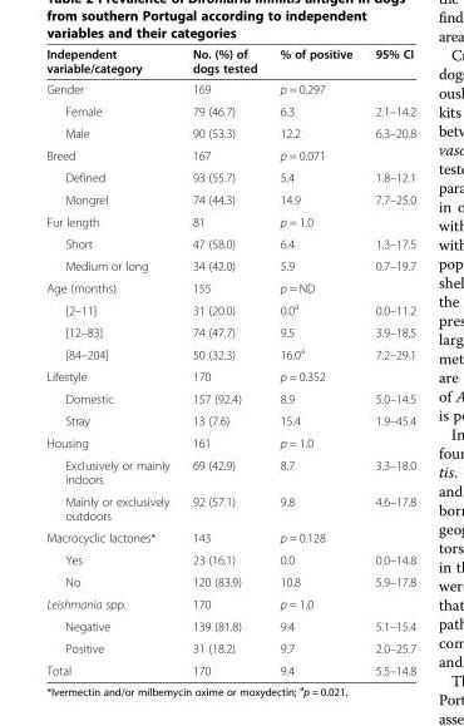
<table><thead><tr><td>Independent variable/category</td><td>No. (%) of dogs tested</td><td>% of positive</td><td>95% CI</td></tr></thead><tbody><tr><td>Gender</td><td>169</td><td>p = 0.297</td><td></td></tr><tr><td>Female</td><td>79 (46.7)</td><td>6.3</td><td>2.1–14.2</td></tr><tr><td>Male</td><td>90 (53.3)</td><td>12.2</td><td>6.3–20.8</td></tr><tr><td>Breed</td><td>167</td><td>p = 0.071</td><td></td></tr><tr><td>Defined</td><td>93 (55.7)</td><td>5.4</td><td>1.8–12.1</td></tr><tr><td>Mongrel</td><td>74 (44.3)</td><td>14.9</td><td>7.7–25.0</td></tr><tr><td>Fur length</td><td>81</td><td>p = 1.0</td><td></td></tr><tr><td>Short</td><td>47 (58.0)</td><td>6.4</td><td>1.3–17.5</td></tr><tr><td>Medium or long</td><td>34 (42.0)</td><td>5.9</td><td>0.7–19.7</td></tr><tr><td>Age (months)</td><td>155</td><td>p = ND</td><td></td></tr><tr><td>[2–11]</td><td>31 (20.0)</td><td>0.0<sup>a</sup></td><td>0.0–11.2</td></tr><tr><td>[12–83]</td><td>74 (47.7)</td><td>9.5</td><td>3.9–18.5</td></tr><tr><td>[84–204]</td><td>50 (32.3)</td><td>16.0<sup>a</sup></td><td>7.2–29.1</td></tr><tr><td>Lifestyle</td><td>170</td><td>p = 0.352</td><td></td></tr><tr><td>Domestic</td><td>157 (92.4)</td><td>8.9</td><td>5.0–14.5</td></tr><tr><td>Stray</td><td>13 (7.6)</td><td>15.4</td><td>1.9–45.4</td></tr><tr><td>Housing</td><td>161</td><td>p = 1.0</td><td></td></tr><tr><td>Exclusively or mainly indoors</td><td>69 (42.9)</td><td>8.7</td><td>3.3–18.0</td></tr><tr><td>Mainly or exclusively outdoors</td><td>92 (57.1)</td><td>9.8</td><td>4.6–17.8</td></tr><tr><td>Macrocyclic lactones*</td><td>143</td><td>p = 0.128</td><td></td></tr><tr><td>Yes</td><td>23 (16.1)</td><td>0.0</td><td>0.0–14.8</td></tr><tr><td>No</td><td>120 (83.9)</td><td>10.8</td><td>5.9–17.8</td></tr><tr><td>Leishmania spp.</td><td>170</td><td>p = 1.0</td><td></td></tr><tr><td>Negative</td><td>139 (81.8)</td><td>9.4</td><td>5.1–15.4</td></tr><tr><td>Positive</td><td>31 (18.2)</td><td>9.7</td><td>2.0–25.7</td></tr><tr><td>Total</td><td>170</td><td>9.4</td><td>5.5–14.8</td></tr></tbody></table>